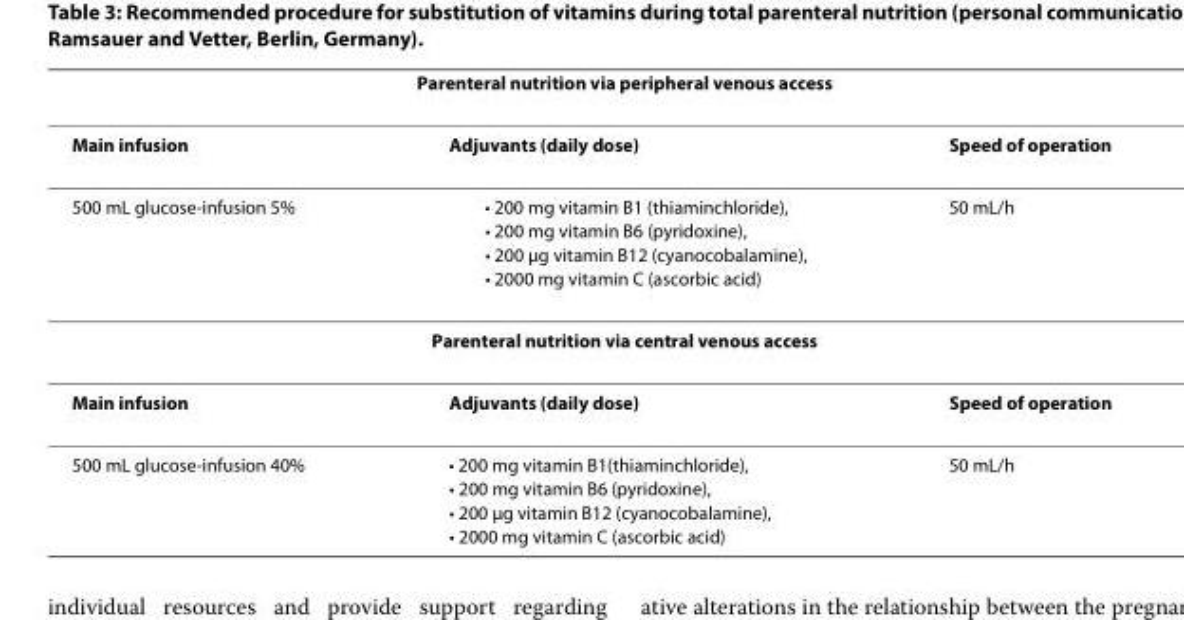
<table><thead><tr><td colspan="3">Parenteral nutrition via peripheral venous access</td></tr><tr><td>Main infusion</td><td>Adjuvants (daily dose)</td><td>Speed of operation</td></tr></thead><tbody><tr><td>500 mL glucose-infusion 5%</td><td>• 200 mg vitamin B1 (thiaminchloride), • 200 mg vitamin B6 (pyridoxine), • 200 μg vitamin B12 (cyanocobalamine), • 2000 mg vitamin C (ascorbic acid)</td><td>50 mL/h</td></tr><tr><td colspan="3">Parenteral nutrition via central venous access</td></tr><tr><td>Main infusion</td><td>Adjuvants (daily dose)</td><td>Speed of operation</td></tr><tr><td>500 mL glucose-infusion 40%</td><td>• 200 mg vitamin B1(thiaminchloride), • 200 mg vitamin B6 (pyridoxine), • 200 μg vitamin B12 (cyanocobalamine), • 2000 mg vitamin C (ascorbic acid)</td><td>50 mL/h</td></tr></tbody></table>